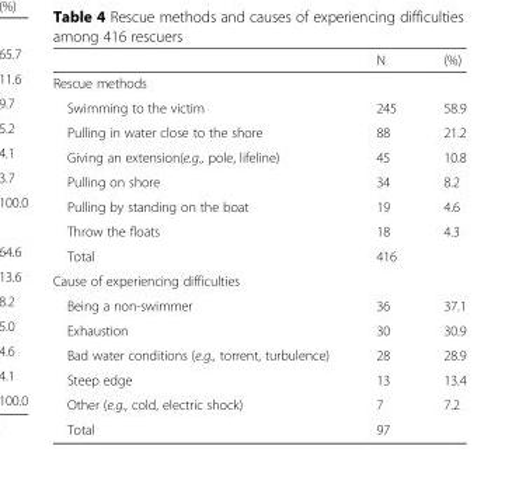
<table><thead><tr><td></td><td>N</td><td>(%)</td></tr></thead><tbody><tr><td colspan="3">Rescue methods</td></tr><tr><td>Swimming to the victim</td><td>245</td><td>58.9</td></tr><tr><td>Pulling in water close to the shore</td><td>88</td><td>21.2</td></tr><tr><td>Giving an extension(e.g., pole, lifeline)</td><td>45</td><td>10.8</td></tr><tr><td>Pulling on shore</td><td>34</td><td>8.2</td></tr><tr><td>Pulling by standing on the boat</td><td>19</td><td>4.6</td></tr><tr><td>Throw the floats</td><td>18</td><td>4.3</td></tr><tr><td>Total</td><td>416</td><td></td></tr><tr><td colspan="3">Cause of experiencing difficulties</td></tr><tr><td>Being a non-swimmer</td><td>36</td><td>37.1</td></tr><tr><td>Exhaustion</td><td>30</td><td>30.9</td></tr><tr><td>Bad water conditions (e.g., torrent, turbulence)</td><td>28</td><td>28.9</td></tr><tr><td>Steep edge</td><td>13</td><td>13.4</td></tr><tr><td>Other (e.g., cold, electric shock)</td><td>7</td><td>7.2</td></tr><tr><td>Total</td><td>97</td><td></td></tr></tbody></table>